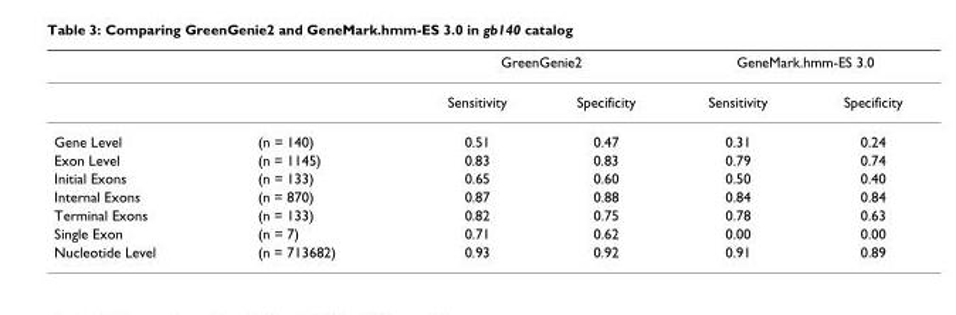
<table><thead><tr><td rowspan="2"></td><td rowspan="2"></td><td colspan="2">GreenGenie2</td><td colspan="2">GeneMark.hmm-ES 3.0</td></tr><tr><td>Sensitivity</td><td>Specificity</td><td>Sensitivity</td><td>Specificity</td></tr></thead><tbody><tr><td>Gene Level</td><td>(n = 140)</td><td>0.51</td><td>0.47</td><td>0.31</td><td>0.24</td></tr><tr><td>Exon Level</td><td>(n = 1145)</td><td>0.83</td><td>0.83</td><td>0.79</td><td>0.74</td></tr><tr><td>Initial Exons</td><td>(n = 133)</td><td>0.65</td><td>0.60</td><td>0.50</td><td>0.40</td></tr><tr><td>Internal Exons</td><td>(n = 870)</td><td>0.87</td><td>0.88</td><td>0.84</td><td>0.84</td></tr><tr><td>Terminal Exons</td><td>(n = 133)</td><td>0.82</td><td>0.75</td><td>0.78</td><td>0.63</td></tr><tr><td>Single Exon</td><td>(n = 7)</td><td>0.71</td><td>0.62</td><td>0.00</td><td>0.00</td></tr><tr><td>Nucleotide Level</td><td>(n = 713682)</td><td>0.93</td><td>0.92</td><td>0.91</td><td>0.89</td></tr></tbody></table>